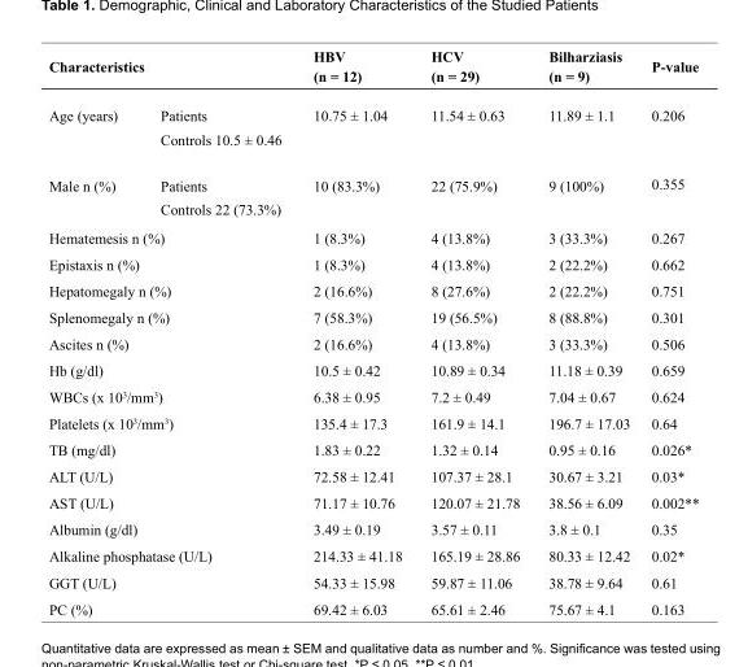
<table><thead><tr><td colspan="2">Characteristics</td><td rowspan="2">HBV (n = 12) 10.75 ± 1.04</td><td rowspan="2">HCV (n = 29) 11.54 ± 0.63</td><td rowspan="2">Bilharziasis (n = 9) 11.89 ± 1.1</td><td rowspan="2">P-value 0.206</td></tr><tr><td>Age (years)</td><td>Patients</td></tr></thead><tbody><tr><td></td><td>Controls 10.5 ± 0.46</td><td colspan="3"></td><td></td></tr><tr><td rowspan="2">Male n (%)</td><td>Patients</td><td>10 (83.3%)</td><td>22 (75.9%)</td><td>9 (100%)</td><td>0.355</td></tr><tr><td>Controls 22 (73.3%)</td><td colspan="3"></td><td></td></tr><tr><td colspan="2">Hematemesis n (%)</td><td>1 (8.3%)</td><td>4 (13.8%)</td><td>3 (33.3%)</td><td>0.267</td></tr><tr><td colspan="2">Epistaxis n (%)</td><td>1 (8.3%)</td><td>4 (13.8%)</td><td>2 (22.2%)</td><td>0.662</td></tr><tr><td colspan="2">Hepatomegaly n (%)</td><td>2 (16.6%)</td><td>8 (27.6%)</td><td>2 (22.2%)</td><td>0.751</td></tr><tr><td colspan="2">Splenomegaly n (%)</td><td>7 (58.3%)</td><td>19 (56.5%)</td><td>8 (88.8%)</td><td>0.301</td></tr><tr><td colspan="2">Ascites n (%)</td><td>2 (16.6%)</td><td>4 (13.8%)</td><td>3 (33.3%)</td><td>0.506</td></tr><tr><td colspan="2">Hb (g/dl)</td><td>10.5 ± 0.42</td><td>10.89 ± 0.34</td><td>11.18 ± 0.39</td><td>0.659</td></tr><tr><td colspan="2">WBCs (x 10<sup>3</sup>/mm<sup>3</sup>)</td><td>6.38 ± 0.95</td><td>7.2 ± 0.49</td><td>7.04 ± 0.67</td><td>0.624</td></tr><tr><td colspan="2">Platelets (x 10<sup>3</sup>/mm<sup>3</sup>)</td><td>135.4 ± 17.3</td><td>161.9 ± 14.1</td><td>196.7 ± 17.03</td><td>0.64</td></tr><tr><td colspan="2">TB (mg/dl)</td><td>1.83 ± 0.22</td><td>1.32 ± 0.14</td><td>0.95 ± 0.16</td><td>0.026*</td></tr><tr><td colspan="2">ALT (U/L)</td><td>72.58 ± 12.41</td><td>107.37 ± 28.1</td><td>30.67 ± 3.21</td><td>0.03*</td></tr><tr><td colspan="2">AST (U/L)</td><td>71.17 ± 10.76</td><td>120.07 ± 21.78</td><td>38.56 ± 6.09</td><td>0.002**</td></tr><tr><td colspan="2">Albumin (g/dl)</td><td>3.49 ± 0.19</td><td>3.57 ± 0.11</td><td>3.8 ± 0.1</td><td>0.35</td></tr><tr><td colspan="2">Alkaline phosphatase (U/L)</td><td>214.33 ± 41.18</td><td>165.19 ± 28.86</td><td>80.33 ± 12.42</td><td>0.02*</td></tr><tr><td colspan="2">GGT (U/L)</td><td>54.33 ± 15.98</td><td>59.87 ± 11.06</td><td>38.78 ± 9.64</td><td>0.61</td></tr><tr><td colspan="2">PC (%)</td><td>69.42 ± 6.03</td><td>65.61 ± 2.46</td><td>75.67 ± 4.1</td><td>0.163</td></tr></tbody></table>